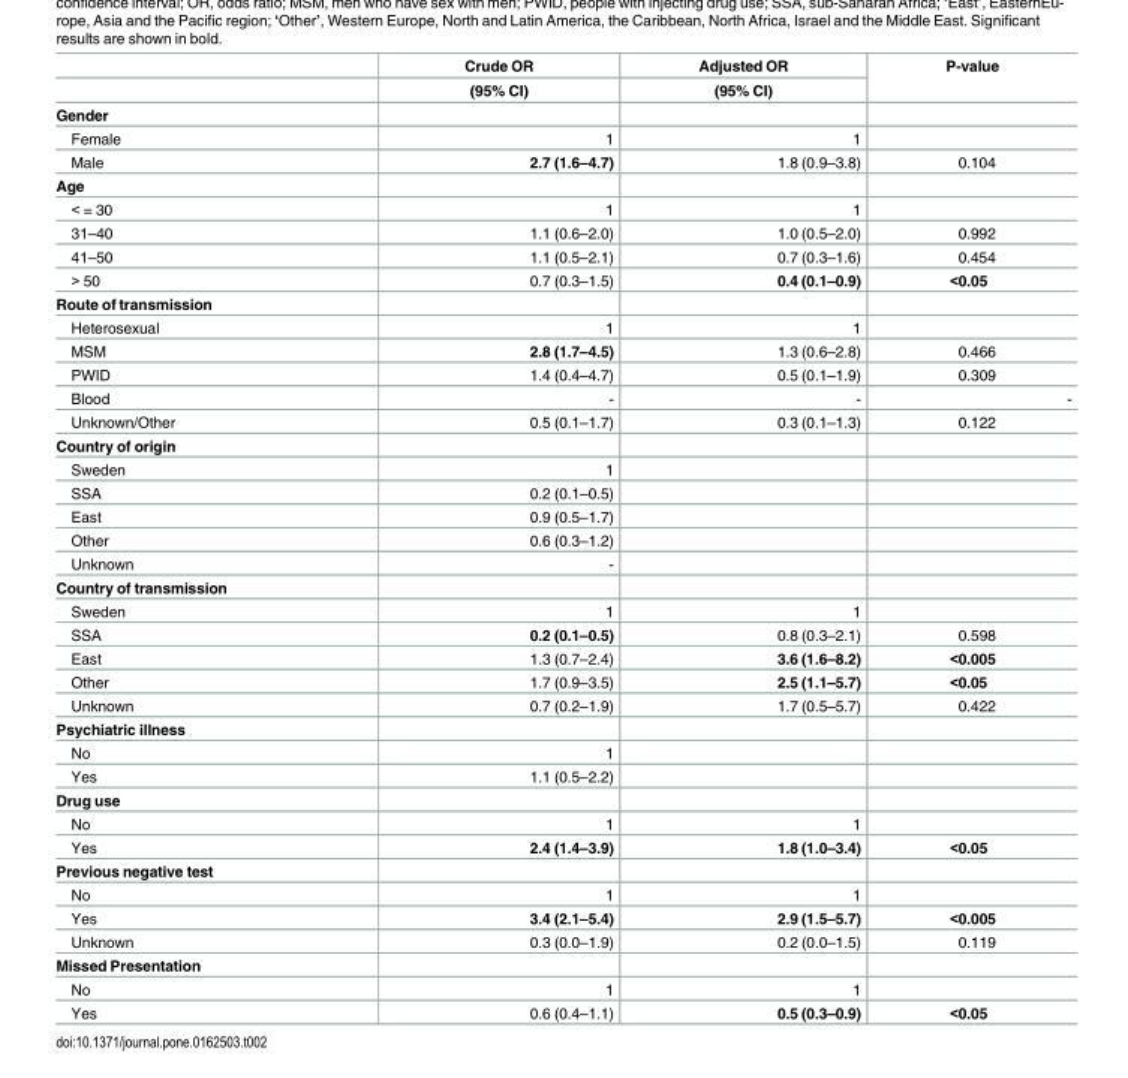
<table><thead><tr><td rowspan="2"></td><td rowspan="2">Crude OR (95% CI)</td><td rowspan="2">Adjusted OR (95% CI)</td><td rowspan="2">P-value</td></tr><tr></tr></thead><tbody><tr><td colspan="4">Gender</td></tr><tr><td>Female</td><td>1</td><td>1</td><td></td></tr><tr><td>Male</td><td>2.7 (1.6–4.7)</td><td>1.8 (0.9–3.8)</td><td>0.104</td></tr><tr><td colspan="4">Age</td></tr><tr><td>&lt; = 30</td><td>1</td><td>1</td><td></td></tr><tr><td>31–40</td><td>1.1 (0.6–2.0)</td><td>1.0 (0.5–2.0)</td><td>0.992</td></tr><tr><td>41–50</td><td>1.1 (0.5–2.1)</td><td>0.7 (0.3–1.6)</td><td>0.454</td></tr><tr><td>&gt; 50</td><td>0.7 (0.3–1.5)</td><td>0.4 (0.1–0.9)</td><td>&lt;0.05</td></tr><tr><td colspan="4">Route of transmission</td></tr><tr><td>Heterosexual</td><td>1</td><td>1</td><td></td></tr><tr><td>MSM</td><td>2.8 (1.7–4.5)</td><td>1.3 (0.6–2.8)</td><td>0.466</td></tr><tr><td>PWID</td><td>1.4 (0.4–4.7)</td><td>0.5 (0.1–1.9)</td><td>0.309</td></tr><tr><td>Blood</td><td>-</td><td>-</td><td>-</td></tr><tr><td>Unknown/Other</td><td>0.5 (0.1–1.7)</td><td>0.3 (0.1–1.3)</td><td>0.122</td></tr><tr><td colspan="4">Country of origin</td></tr><tr><td>Sweden</td><td>1</td><td></td><td></td></tr><tr><td>SSA</td><td>0.2 (0.1–0.5)</td><td></td><td></td></tr><tr><td>East</td><td>0.9 (0.5–1.7)</td><td></td><td></td></tr><tr><td>Other</td><td>0.6 (0.3–1.2)</td><td></td><td></td></tr><tr><td>Unknown</td><td>-</td><td></td><td></td></tr><tr><td colspan="4">Country of transmission</td></tr><tr><td>Sweden</td><td>1</td><td>1</td><td></td></tr><tr><td>SSA</td><td>0.2 (0.1–0.5)</td><td>0.8 (0.3–2.1)</td><td>0.598</td></tr><tr><td>East</td><td>1.3 (0.7–2.4)</td><td>3.6 (1.6–8.2)</td><td>&lt;0.005</td></tr><tr><td>Other</td><td>1.7 (0.9–3.5)</td><td>2.5 (1.1–5.7)</td><td>&lt;0.05</td></tr><tr><td>Unknown</td><td>0.7 (0.2–1.9)</td><td>1.7 (0.5–5.7)</td><td>0.422</td></tr><tr><td colspan="4">Psychiatric illness</td></tr><tr><td>No</td><td>1</td><td></td><td></td></tr><tr><td>Yes</td><td>1.1 (0.5–2.2)</td><td></td><td></td></tr><tr><td colspan="4">Drug use</td></tr><tr><td>No</td><td>1</td><td>1</td><td></td></tr><tr><td>Yes</td><td>2.4 (1.4–3.9)</td><td>1.8 (1.0–3.4)</td><td>&lt;0.05</td></tr><tr><td colspan="4">Previous negative test</td></tr><tr><td>No</td><td>1</td><td>1</td><td></td></tr><tr><td>Yes</td><td>3.4 (2.1–5.4)</td><td>2.9 (1.5–5.7)</td><td>&lt;0.005</td></tr><tr><td>Unknown</td><td>0.3 (0.0–1.9)</td><td>0.2 (0.0–1.5)</td><td>0.119</td></tr><tr><td colspan="4">Missed Presentation</td></tr><tr><td>No</td><td>1</td><td>1</td><td></td></tr><tr><td>Yes</td><td>0.6 (0.4–1.1)</td><td>0.5 (0.3–0.9)</td><td>&lt;0.05</td></tr></tbody></table>